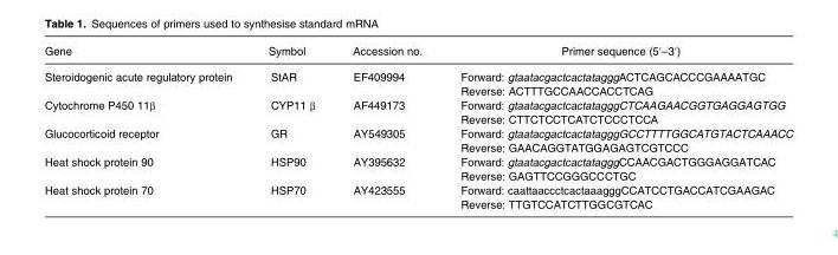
<table><thead><tr><td>Gene</td><td>Symbol</td><td>Accession no.</td><td>Primer sequence (5′–3′)</td></tr></thead><tbody><tr><td rowspan="2">Steroidogenic acute regulatory protein</td><td>StAR</td><td>EF409994</td><td>Forward: gtaatacgactcactatagggACTCAGCACCCGAAAATGC</td></tr><tr><td></td><td></td><td>Reverse: ACTTTGCCAACCACCTCAG</td></tr><tr><td rowspan="2">Cytochrome P450 11β</td><td>CYP11 β</td><td>AF449173</td><td>Forward: gtaatacgactcactatagggCTCAAGAACGGTGAGGAGTGG</td></tr><tr><td></td><td></td><td>Reverse: CTTCTCCTCATCTCCCTCCA</td></tr><tr><td rowspan="2">Glucocorticoid receptor</td><td>GR</td><td>AY549305</td><td>Forward: gtaatacgactcactatagggGCCTTTTGGCATGTACTCAAACC</td></tr><tr><td></td><td></td><td>Reverse: GAACAGGTATGGAGAGTCGTCCC</td></tr><tr><td rowspan="2">Heat shock protein 90</td><td>HSP90</td><td>AY395632</td><td>Forward: gtaatacgactcactatagggCCAACGACTGGGAGGATCAC</td></tr><tr><td></td><td></td><td>Reverse: GAGTTCCGGGCCCTGC</td></tr><tr><td rowspan="2">Heat shock protein 70</td><td>HSP70</td><td>AY423555</td><td>Forward: caattaaccctcactaaagggCCATCCTGACCATCGAAGAC</td></tr><tr><td></td><td></td><td>Reverse: TTGTCCATCTTGGCGTCAC</td></tr></tbody></table>